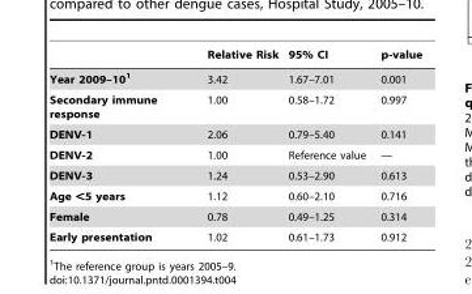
<table><thead><tr><td></td><td>Relative Risk</td><td>95% CI</td><td>p-value</td></tr></thead><tbody><tr><td>Year 2009–101</td><td>3.42</td><td>1.67–7.01</td><td>0.001</td></tr><tr><td>Secondary immune response</td><td>1.00</td><td>0.58–1.72</td><td>0.997</td></tr><tr><td>DENV-1</td><td>2.06</td><td>0.79–5.40</td><td>0.141</td></tr><tr><td>DENV-2</td><td>1.00</td><td>Reference value</td><td>—</td></tr><tr><td>DENV-3</td><td>1.24</td><td>0.53–2.90</td><td>0.613</td></tr><tr><td>Age &lt;5 years</td><td>1.12</td><td>0.60–2.10</td><td>0.716</td></tr><tr><td>Female</td><td>0.78</td><td>0.49–1.25</td><td>0.314</td></tr><tr><td>Early presentation</td><td>1.02</td><td>0.61–1.73</td><td>0.912</td></tr></tbody></table>